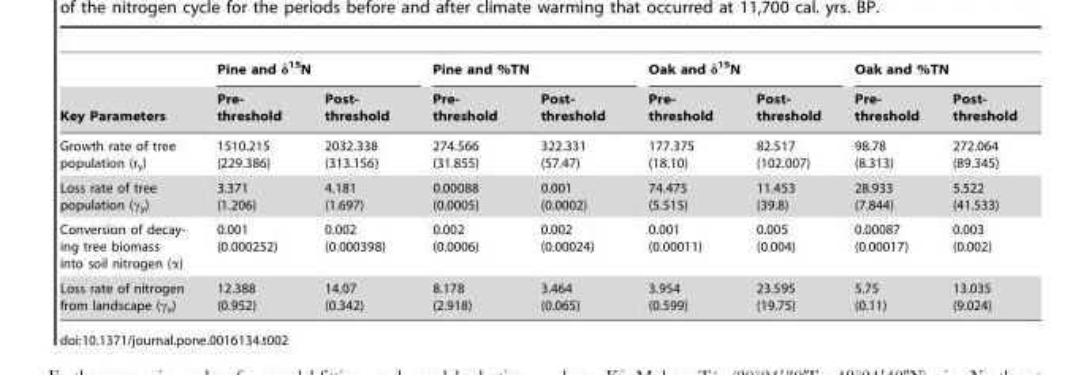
<table><thead><tr><td rowspan="2">Key Parameters</td><td colspan="2">Pine and δ<sup>15</sup>N</td><td colspan="2">Pine and %TN</td><td colspan="2">Oak and δ<sup>15</sup>N</td><td colspan="2">Oak and %TN</td></tr><tr><td>Pre- threshold</td><td>Post- threshold</td><td>Pre- threshold</td><td>Post- threshold</td><td>Pre- threshold</td><td>Post- threshold</td><td>Pre- threshold</td><td>Post- threshold</td></tr></thead><tbody><tr><td>Growth rate of tree population (r<sub>y</sub>)</td><td>1510.215 (229.386)</td><td>2032.338 (313.156)</td><td>274.566 (31.855)</td><td>322.331 (57.47)</td><td>177.375 (18.10)</td><td>82.517 (102.007)</td><td>98.78 (8.313)</td><td>272.064 (89.345)</td></tr><tr><td>Loss rate of tree population (γ<sub>y</sub>)</td><td>3.371 (1.206)</td><td>4.181 (1.697)</td><td>0.00088 (0.0005)</td><td>0.001 (0.0002)</td><td>74.475 (5.515)</td><td>11.453 (39.8)</td><td>28.933 (7.844)</td><td>5.522 (41.533)</td></tr><tr><td>Conversion of decay- ing tree biomass into soil nitrogen (a)</td><td>0.001 (0.000252)</td><td>0.002 (0.000398)</td><td>0.002 (0.0006)</td><td>0.002 (0.00024)</td><td>0.001 (0.00011)</td><td>0.005 (0.004)</td><td>0.00087 (0.00017)</td><td>0.003 (0.002)</td></tr><tr><td>Loss rate of nitrogen from landscape (γ<sub>x</sub>)</td><td>12.388 (0.952)</td><td>14.07 (0.342)</td><td>8.178 (2.918)</td><td>3.464 (0.065)</td><td>3.954 (0.599)</td><td>23.595 (19.75)</td><td>5.75 (0.11)</td><td>13.035 (9.024)</td></tr></tbody></table>